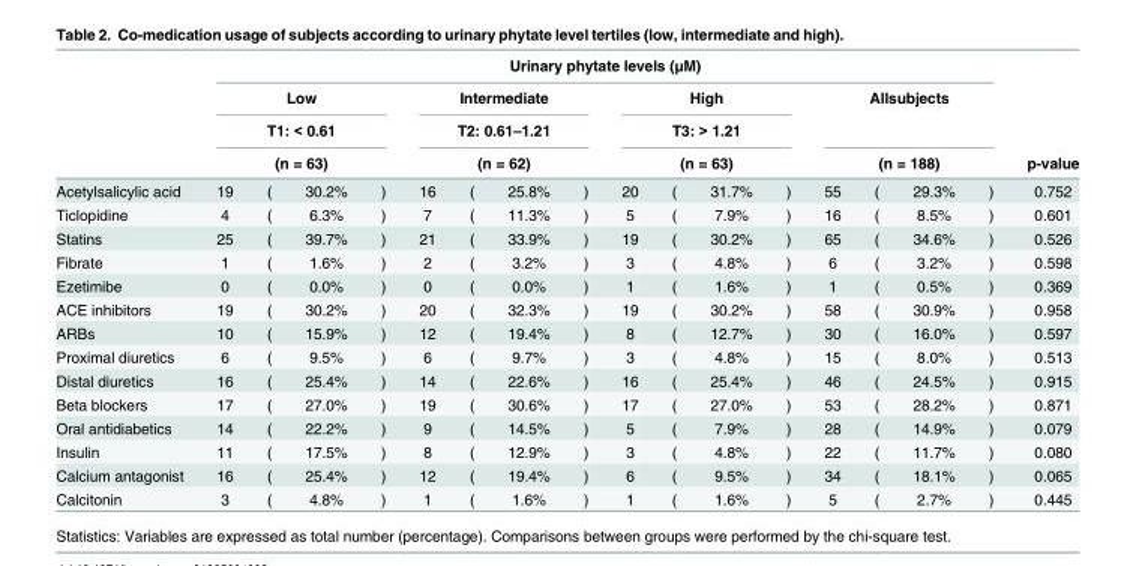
<table><thead><tr><td rowspan="5">Acetylsalicylic acid</td><td colspan="16">Urinary phytate levels (μM)</td><td rowspan="5">p-value 0.752</td></tr><tr><td rowspan="3" colspan="4">Low T1: &lt; 0.61 (n = 63)</td><td rowspan="3" colspan="4">Intermediate T2: 0.61–1.21 (n = 62)</td><td rowspan="3" colspan="4">High T3: &gt; 1.21 (n = 63)</td><td rowspan="3" colspan="4">Allsubjects (n = 188)</td></tr><tr></tr><tr></tr><tr><td>19</td><td>(</td><td>30.2%</td><td>)</td><td>16</td><td>(</td><td>25.8%</td><td>)</td><td>20</td><td>(</td><td>31.7%</td><td>)</td><td>55</td><td>(</td><td>29.3%</td><td>)</td></tr></thead><tbody><tr><td>Ticlopidine</td><td>4</td><td>(</td><td>6.3%</td><td>)</td><td>7</td><td>(</td><td>11.3%</td><td>)</td><td>5</td><td>(</td><td>7.9%</td><td>)</td><td>16</td><td>(</td><td>8.5%</td><td>)</td><td>0.601</td></tr><tr><td>Statins</td><td>25</td><td>(</td><td>39.7%</td><td>)</td><td>21</td><td>(</td><td>33.9%</td><td>)</td><td>19</td><td>(</td><td>30.2%</td><td>)</td><td>65</td><td>(</td><td>34.6%</td><td>)</td><td>0.526</td></tr><tr><td>Fibrate</td><td>1</td><td>(</td><td>1.6%</td><td>)</td><td>2</td><td>(</td><td>3.2%</td><td>)</td><td>3</td><td>(</td><td>4.8%</td><td>)</td><td>6</td><td>(</td><td>3.2%</td><td>)</td><td>0.598</td></tr><tr><td>Ezetimibe</td><td>0</td><td>(</td><td>0.0%</td><td>)</td><td>0</td><td>(</td><td>0.0%</td><td>)</td><td>1</td><td>(</td><td>1.6%</td><td>)</td><td>1</td><td>(</td><td>0.5%</td><td>)</td><td>0.369</td></tr><tr><td>ACE inhibitors</td><td>19</td><td>(</td><td>30.2%</td><td>)</td><td>20</td><td>(</td><td>32.3%</td><td>)</td><td>19</td><td>(</td><td>30.2%</td><td>)</td><td>58</td><td>(</td><td>30.9%</td><td>)</td><td>0.958</td></tr><tr><td>ARBs</td><td>10</td><td>(</td><td>15.9%</td><td>)</td><td>12</td><td>(</td><td>19.4%</td><td>)</td><td>8</td><td>(</td><td>12.7%</td><td>)</td><td>30</td><td>(</td><td>16.0%</td><td>)</td><td>0.597</td></tr><tr><td>Proximal diuretics</td><td>6</td><td>(</td><td>9.5%</td><td>)</td><td>6</td><td>(</td><td>9.7%</td><td>)</td><td>3</td><td>(</td><td>4.8%</td><td>)</td><td>15</td><td>(</td><td>8.0%</td><td>)</td><td>0.513</td></tr><tr><td>Distal diuretics</td><td>16</td><td>(</td><td>25.4%</td><td>)</td><td>14</td><td>(</td><td>22.6%</td><td>)</td><td>16</td><td>(</td><td>25.4%</td><td>)</td><td>46</td><td>(</td><td>24.5%</td><td>)</td><td>0.915</td></tr><tr><td>Beta blockers</td><td>17</td><td>(</td><td>27.0%</td><td>)</td><td>19</td><td>(</td><td>30.6%</td><td>)</td><td>17</td><td>(</td><td>27.0%</td><td>)</td><td>53</td><td>(</td><td>28.2%</td><td>)</td><td>0.871</td></tr><tr><td>Oral antidiabetics</td><td>14</td><td>(</td><td>22.2%</td><td>)</td><td>9</td><td>(</td><td>14.5%</td><td>)</td><td>5</td><td>(</td><td>7.9%</td><td>)</td><td>28</td><td>(</td><td>14.9%</td><td>)</td><td>0.079</td></tr><tr><td>Insulin</td><td>11</td><td>(</td><td>17.5%</td><td>)</td><td>8</td><td>(</td><td>12.9%</td><td>)</td><td>3</td><td>(</td><td>4.8%</td><td>)</td><td>22</td><td>(</td><td>11.7%</td><td>)</td><td>0.080</td></tr><tr><td>Calcium antagonist</td><td>16</td><td>(</td><td>25.4%</td><td>)</td><td>12</td><td>(</td><td>19.4%</td><td>)</td><td>6</td><td>(</td><td>9.5%</td><td>)</td><td>34</td><td>(</td><td>18.1%</td><td>)</td><td>0.065</td></tr><tr><td>Calcitonin</td><td>3</td><td>(</td><td>4.8%</td><td>)</td><td>1</td><td>(</td><td>1.6%</td><td>)</td><td>1</td><td>(</td><td>1.6%</td><td>)</td><td>5</td><td>(</td><td>2.7%</td><td>)</td><td>0.445</td></tr></tbody></table>